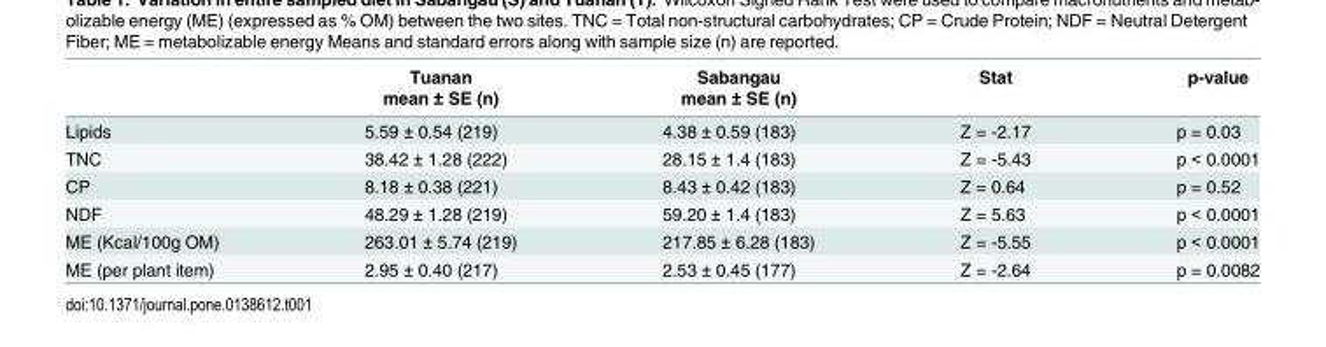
<table><thead><tr><td rowspan="2"></td><td rowspan="2">Tuanan mean ± SE (n)</td><td rowspan="2">Sabangau mean ± SE (n)</td><td rowspan="2">Stat</td><td rowspan="2">p-value</td></tr><tr></tr></thead><tbody><tr><td>Lipids</td><td>5.59 ± 0.54 (219)</td><td>4.38 ± 0.59 (183)</td><td>Z = -2.17</td><td>p = 0.03</td></tr><tr><td>TNC</td><td>38.42 ± 1.28 (222)</td><td>28.15 ± 1.4 (183)</td><td>Z = -5.43</td><td>p &lt; 0.0001</td></tr><tr><td>CP</td><td>8.18 ± 0.38 (221)</td><td>8.43 ± 0.42 (183)</td><td>Z = 0.64</td><td>p = 0.52</td></tr><tr><td>NDF</td><td>48.29 ± 1.28 (219)</td><td>59.20 ± 1.4 (183)</td><td>Z = 5.63</td><td>p &lt; 0.0001</td></tr><tr><td>ME (Kcal/100g OM)</td><td>263.01 ± 5.74 (219)</td><td>217.85 ± 6.28 (183)</td><td>Z = -5.55</td><td>p &lt; 0.0001</td></tr><tr><td>ME (per plant item)</td><td>2.95 ± 0.40 (217)</td><td>2.53 ± 0.45 (177)</td><td>Z = -2.64</td><td>p = 0.0082</td></tr></tbody></table>